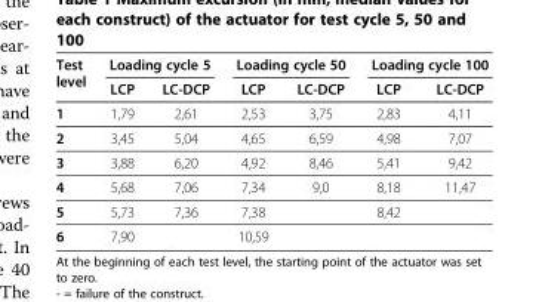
<table><thead><tr><td rowspan="2">Test level</td><td colspan="2">Loading cycle 5</td><td colspan="2">Loading cycle 50</td><td colspan="2">Loading cycle 100</td></tr><tr><td>LCP</td><td>LC-DCP</td><td>LCP</td><td>LC-DCP</td><td>LCP</td><td>LC-DCP</td></tr></thead><tbody><tr><td>1</td><td>1,79</td><td>2,61</td><td>2,53</td><td>3,75</td><td>2,83</td><td>4,11</td></tr><tr><td>2</td><td>3,45</td><td>5,04</td><td>4,65</td><td>6,59</td><td>4,98</td><td>7,07</td></tr><tr><td>3</td><td>3,88</td><td>6,20</td><td>4,92</td><td>8,46</td><td>5,41</td><td>9,42</td></tr><tr><td>4</td><td>5,68</td><td>7,06</td><td>7,34</td><td>9,0</td><td>8,18</td><td>11,47</td></tr><tr><td>5</td><td>5,73</td><td>7,36</td><td>7,38</td><td></td><td>8,42</td><td></td></tr><tr><td>6</td><td>7,90</td><td></td><td>10,59</td><td></td><td></td><td></td></tr></tbody></table>